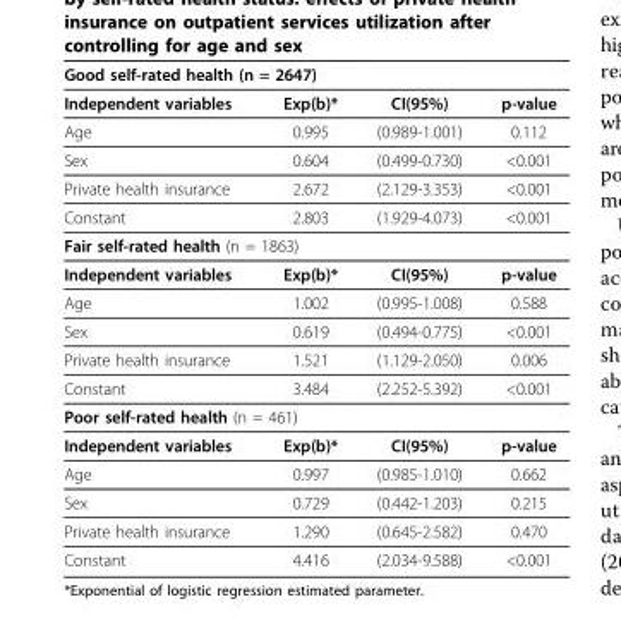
<table><thead><tr><td colspan="4">Good self-rated health (n = 2647)</td></tr><tr><td>Independent variables</td><td>Exp(b)*</td><td>CI(95%)</td><td>p-value</td></tr></thead><tbody><tr><td>Age</td><td>0.995</td><td>(0.989-1.001)</td><td>0.112</td></tr><tr><td>Sex</td><td>0.604</td><td>(0.499-0.730)</td><td>&lt;0.001</td></tr><tr><td>Private health insurance</td><td>2.672</td><td>(2.129-3.353)</td><td>&lt;0.001</td></tr><tr><td>Constant</td><td>2.803</td><td>(1.929-4.073)</td><td>&lt;0.001</td></tr><tr><td colspan="4">Fair self-rated health (n = 1863)</td></tr><tr><td>Independent variables</td><td>Exp(b)*</td><td>CI(95%)</td><td>p-value</td></tr><tr><td>Age</td><td>1.002</td><td>(0.995-1.008)</td><td>0.588</td></tr><tr><td>Sex</td><td>0.619</td><td>(0.494-0.775)</td><td>&lt;0.001</td></tr><tr><td>Private health insurance</td><td>1.521</td><td>(1.129-2.050)</td><td>0.006</td></tr><tr><td>Constant</td><td>3.484</td><td>(2.252-5.392)</td><td>&lt;0.001</td></tr><tr><td colspan="4">Poor self-rated health (n = 461)</td></tr><tr><td>Independent variables</td><td>Exp(b)*</td><td>CI(95%)</td><td>p-value</td></tr><tr><td>Age</td><td>0.997</td><td>(0.985-1.010)</td><td>0.662</td></tr><tr><td>Sex</td><td>0.729</td><td>(0.442-1.203)</td><td>0.215</td></tr><tr><td>Private health insurance</td><td>1.290</td><td>(0.645-2.582)</td><td>0.470</td></tr><tr><td>Constant</td><td>4.416</td><td>(2.034-9.588)</td><td>&lt;0.001</td></tr></tbody></table>